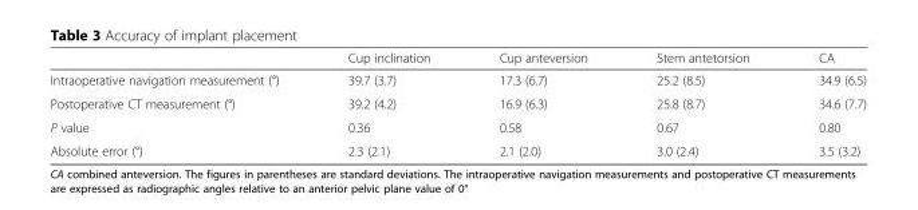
<table><thead><tr><td></td><td>Cup inclination</td><td>Cup anteversion</td><td>Stem antetorsion</td><td>CA</td></tr></thead><tbody><tr><td>Intraoperative navigation measurement (°)</td><td>39.7 (3.7)</td><td>17.3 (6.7)</td><td>25.2 (8.5)</td><td>34.9 (6.5)</td></tr><tr><td>Postoperative CT measurement (°)</td><td>39.2 (4.2)</td><td>16.9 (6.3)</td><td>25.8 (8.7)</td><td>34.6 (7.7)</td></tr><tr><td>P value</td><td>0.36</td><td>0.58</td><td>0.67</td><td>0.80</td></tr><tr><td>Absolute error (°)</td><td>2.3 (2.1)</td><td>2.1 (2.0)</td><td>3.0 (2.4)</td><td>3.5 (3.2)</td></tr></tbody></table>